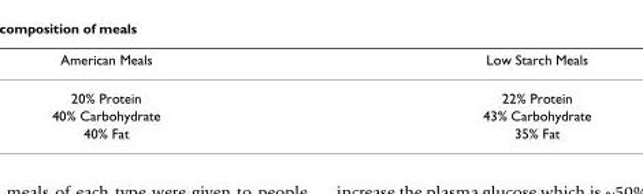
<table><thead><tr><td>American Meals</td><td>Low Starch Meals</td></tr></thead><tbody><tr><td>20% Protein</td><td>22% Protein</td></tr><tr><td>40% Carbohydrate</td><td>43% Carbohydrate</td></tr><tr><td>40% Fat</td><td>35% Fat</td></tr></tbody></table>